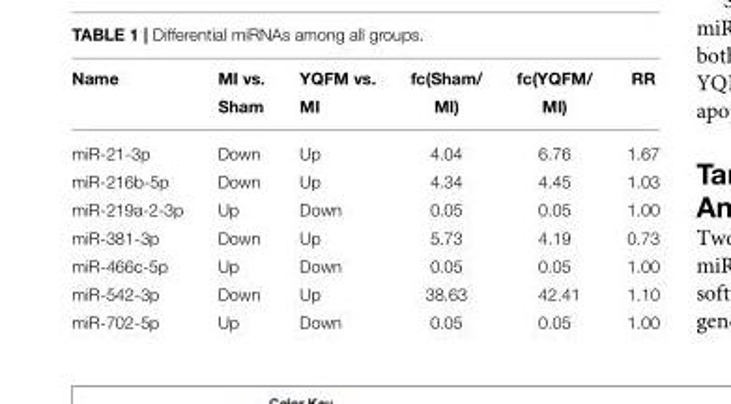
<table><thead><tr><td>Name</td><td>MI vs. Sham</td><td>YQFM vs. MI</td><td>fc(Sham/ MI)</td><td>fc(YQFM/ MI)</td><td>RR</td></tr></thead><tbody><tr><td>miR-21-3p</td><td>Down</td><td>Up</td><td>4.04</td><td>6.76</td><td>1.67</td></tr><tr><td>miR-216b-5p</td><td>Down</td><td>Up</td><td>4.34</td><td>4.45</td><td>1.03</td></tr><tr><td>miR-219a-2-3p</td><td>Up</td><td>Down</td><td>0.05</td><td>0.05</td><td>1.00</td></tr><tr><td>miR-381-3p</td><td>Down</td><td>Up</td><td>5.73</td><td>4.19</td><td>0.73</td></tr><tr><td>miR-466c-5p</td><td>Up</td><td>Down</td><td>0.05</td><td>0.05</td><td>1.00</td></tr><tr><td>miR-542-3p</td><td>Down</td><td>Up</td><td>38.63</td><td>42.41</td><td>1.10</td></tr><tr><td>miR-702-5p</td><td>Up</td><td>Down</td><td>0.05</td><td>0.05</td><td>1.00</td></tr></tbody></table>